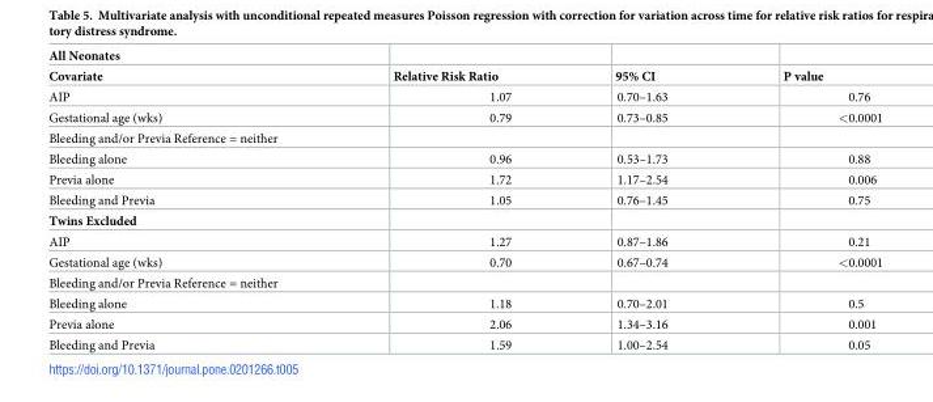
<table><thead><tr><td rowspan="2">All Neonates Covariate</td><td rowspan="2">Relative Risk Ratio</td><td rowspan="2">95% CI</td><td rowspan="2">P value</td></tr><tr></tr></thead><tbody><tr><td>AIP</td><td>1.07</td><td>0.70–1.63</td><td>0.76</td></tr><tr><td>Gestational age (wks)</td><td>0.79</td><td>0.73–0.85</td><td>&lt;0.0001</td></tr><tr><td colspan="4">Bleeding and/or Previa Reference = neither</td></tr><tr><td>Bleeding alone</td><td>0.96</td><td>0.53–1.73</td><td>0.88</td></tr><tr><td>Previa alone</td><td>1.72</td><td>1.17–2.54</td><td>0.006</td></tr><tr><td>Bleeding and Previa</td><td>1.05</td><td>0.76–1.45</td><td>0.75</td></tr><tr><td colspan="4">Twins Excluded</td></tr><tr><td>AIP</td><td>1.27</td><td>0.87–1.86</td><td>0.21</td></tr><tr><td>Gestational age (wks)</td><td>0.70</td><td>0.67–0.74</td><td>&lt;0.0001</td></tr><tr><td colspan="4">Bleeding and/or Previa Reference = neither</td></tr><tr><td>Bleeding alone</td><td>1.18</td><td>0.70–2.01</td><td>0.5</td></tr><tr><td>Previa alone</td><td>2.06</td><td>1.34–3.16</td><td>0.001</td></tr><tr><td>Bleeding and Previa</td><td>1.59</td><td>1.00–2.54</td><td>0.05</td></tr></tbody></table>